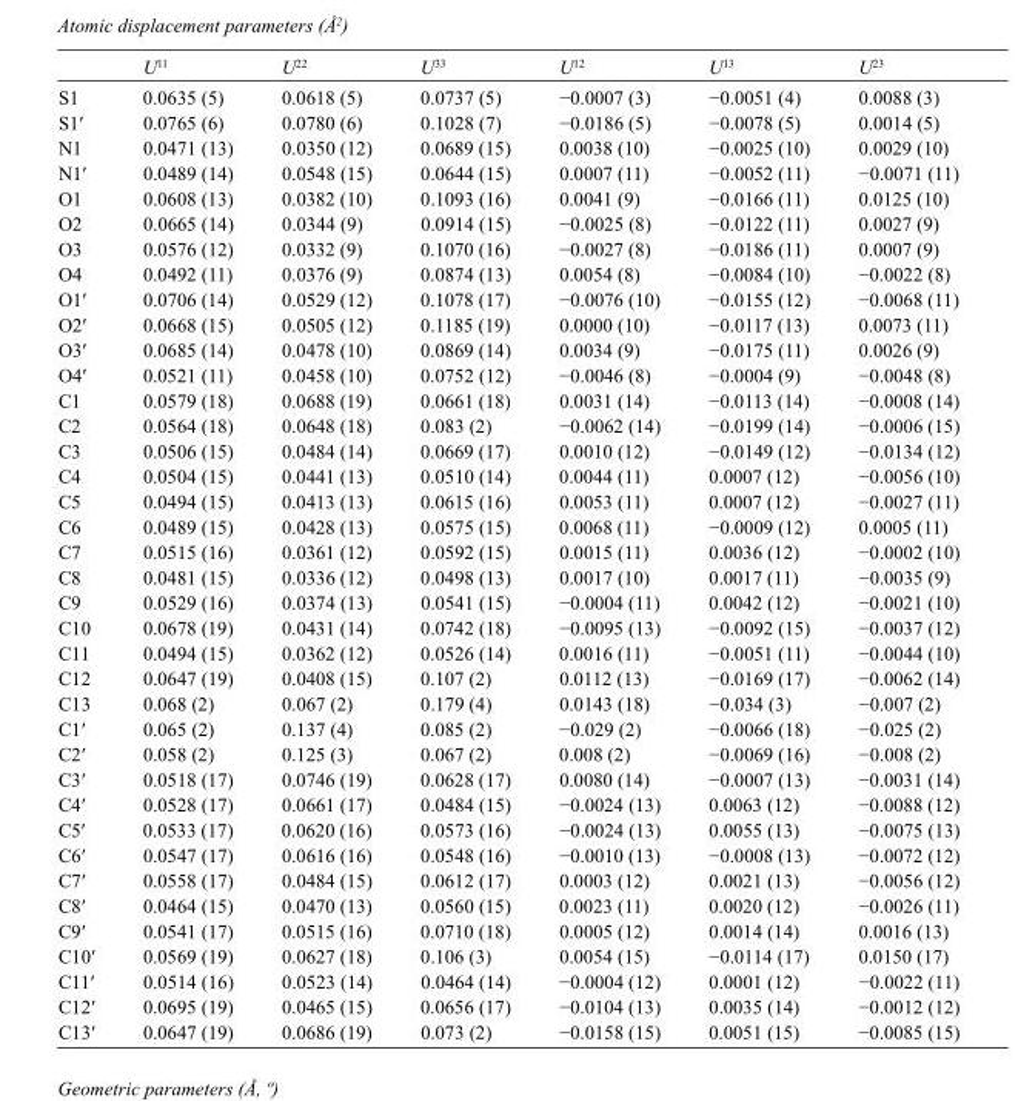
<table><thead><tr><td></td><td>U<sup>11</sup></td><td>U<sup>22</sup></td><td>U<sup>33</sup></td><td>U<sup>12</sup></td><td>U<sup>13</sup></td><td>U<sup>23</sup></td></tr></thead><tbody><tr><td>S1</td><td>0.0635 (5)</td><td>0.0618 (5)</td><td>0.0737 (5)</td><td>−0.0007 (3)</td><td>−0.0051 (4)</td><td>0.0088 (3)</td></tr><tr><td>S1′</td><td>0.0765 (6)</td><td>0.0780 (6)</td><td>0.1028 (7)</td><td>−0.0186 (5)</td><td>−0.0078 (5)</td><td>0.0014 (5)</td></tr><tr><td>N1</td><td>0.0471 (13)</td><td>0.0350 (12)</td><td>0.0689 (15)</td><td>0.0038 (10)</td><td>−0.0025 (10)</td><td>0.0029 (10)</td></tr><tr><td>N1′</td><td>0.0489 (14)</td><td>0.0548 (15)</td><td>0.0644 (15)</td><td>0.0007 (11)</td><td>−0.0052 (11)</td><td>−0.0071 (11)</td></tr><tr><td>O1</td><td>0.0608 (13)</td><td>0.0382 (10)</td><td>0.1093 (16)</td><td>0.0041 (9)</td><td>−0.0166 (11)</td><td>0.0125 (10)</td></tr><tr><td>O2</td><td>0.0665 (14)</td><td>0.0344 (9)</td><td>0.0914 (15)</td><td>−0.0025 (8)</td><td>−0.0122 (11)</td><td>0.0027 (9)</td></tr><tr><td>O3</td><td>0.0576 (12)</td><td>0.0332 (9)</td><td>0.1070 (16)</td><td>−0.0027 (8)</td><td>−0.0186 (11)</td><td>0.0007 (9)</td></tr><tr><td>O4</td><td>0.0492 (11)</td><td>0.0376 (9)</td><td>0.0874 (13)</td><td>0.0054 (8)</td><td>−0.0084 (10)</td><td>−0.0022 (8)</td></tr><tr><td>O1′</td><td>0.0706 (14)</td><td>0.0529 (12)</td><td>0.1078 (17)</td><td>−0.0076 (10)</td><td>−0.0155 (12)</td><td>−0.0068 (11)</td></tr><tr><td>O2′</td><td>0.0668 (15)</td><td>0.0505 (12)</td><td>0.1185 (19)</td><td>0.0000 (10)</td><td>−0.0117 (13)</td><td>0.0073 (11)</td></tr><tr><td>O3′</td><td>0.0685 (14)</td><td>0.0478 (10)</td><td>0.0869 (14)</td><td>0.0034 (9)</td><td>−0.0175 (11)</td><td>0.0026 (9)</td></tr><tr><td>O4′</td><td>0.0521 (11)</td><td>0.0458 (10)</td><td>0.0752 (12)</td><td>−0.0046 (8)</td><td>−0.0004 (9)</td><td>−0.0048 (8)</td></tr><tr><td>C1</td><td>0.0579 (18)</td><td>0.0688 (19)</td><td>0.0661 (18)</td><td>0.0031 (14)</td><td>−0.0113 (14)</td><td>−0.0008 (14)</td></tr><tr><td>C2</td><td>0.0564 (18)</td><td>0.0648 (18)</td><td>0.083 (2)</td><td>−0.0062 (14)</td><td>−0.0199 (14)</td><td>−0.0006 (15)</td></tr><tr><td>C3</td><td>0.0506 (15)</td><td>0.0484 (14)</td><td>0.0669 (17)</td><td>0.0010 (12)</td><td>−0.0149 (12)</td><td>−0.0134 (12)</td></tr><tr><td>C4</td><td>0.0504 (15)</td><td>0.0441 (13)</td><td>0.0510 (14)</td><td>0.0044 (11)</td><td>0.0007 (12)</td><td>−0.0056 (10)</td></tr><tr><td>C5</td><td>0.0494 (15)</td><td>0.0413 (13)</td><td>0.0615 (16)</td><td>0.0053 (11)</td><td>0.0007 (12)</td><td>−0.0027 (11)</td></tr><tr><td>C6</td><td>0.0489 (15)</td><td>0.0428 (13)</td><td>0.0575 (15)</td><td>0.0068 (11)</td><td>−0.0009 (12)</td><td>0.0005 (11)</td></tr><tr><td>C7</td><td>0.0515 (16)</td><td>0.0361 (12)</td><td>0.0592 (15)</td><td>0.0015 (11)</td><td>0.0036 (12)</td><td>−0.0002 (10)</td></tr><tr><td>C8</td><td>0.0481 (15)</td><td>0.0336 (12)</td><td>0.0498 (13)</td><td>0.0017 (10)</td><td>0.0017 (11)</td><td>−0.0035 (9)</td></tr><tr><td>C9</td><td>0.0529 (16)</td><td>0.0374 (13)</td><td>0.0541 (15)</td><td>−0.0004 (11)</td><td>0.0042 (12)</td><td>−0.0021 (10)</td></tr><tr><td>C10</td><td>0.0678 (19)</td><td>0.0431 (14)</td><td>0.0742 (18)</td><td>−0.0095 (13)</td><td>−0.0092 (15)</td><td>−0.0037 (12)</td></tr><tr><td>C11</td><td>0.0494 (15)</td><td>0.0362 (12)</td><td>0.0526 (14)</td><td>0.0016 (11)</td><td>−0.0051 (11)</td><td>−0.0044 (10)</td></tr><tr><td>C12</td><td>0.0647 (19)</td><td>0.0408 (15)</td><td>0.107 (2)</td><td>0.0112 (13)</td><td>−0.0169 (17)</td><td>−0.0062 (14)</td></tr><tr><td>C13</td><td>0.068 (2)</td><td>0.067 (2)</td><td>0.179 (4)</td><td>0.0143 (18)</td><td>−0.034 (3)</td><td>−0.007 (2)</td></tr><tr><td>C1′</td><td>0.065 (2)</td><td>0.137 (4)</td><td>0.085 (2)</td><td>−0.029 (2)</td><td>−0.0066 (18)</td><td>−0.025 (2)</td></tr><tr><td>C2′</td><td>0.058 (2)</td><td>0.125 (3)</td><td>0.067 (2)</td><td>0.008 (2)</td><td>−0.0069 (16)</td><td>−0.008 (2)</td></tr><tr><td>C3′</td><td>0.0518 (17)</td><td>0.0746 (19)</td><td>0.0628 (17)</td><td>0.0080 (14)</td><td>−0.0007 (13)</td><td>−0.0031 (14)</td></tr><tr><td>C4′</td><td>0.0528 (17)</td><td>0.0661 (17)</td><td>0.0484 (15)</td><td>−0.0024 (13)</td><td>0.0063 (12)</td><td>−0.0088 (12)</td></tr><tr><td>C5′</td><td>0.0533 (17)</td><td>0.0620 (16)</td><td>0.0573 (16)</td><td>−0.0024 (13)</td><td>0.0055 (13)</td><td>−0.0075 (13)</td></tr><tr><td>C6′</td><td>0.0547 (17)</td><td>0.0616 (16)</td><td>0.0548 (16)</td><td>−0.0010 (13)</td><td>−0.0008 (13)</td><td>−0.0072 (12)</td></tr><tr><td>C7′</td><td>0.0558 (17)</td><td>0.0484 (15)</td><td>0.0612 (17)</td><td>0.0003 (12)</td><td>0.0021 (13)</td><td>−0.0056 (12)</td></tr><tr><td>C8′</td><td>0.0464 (15)</td><td>0.0470 (13)</td><td>0.0560 (15)</td><td>0.0023 (11)</td><td>0.0020 (12)</td><td>−0.0026 (11)</td></tr><tr><td>C9′</td><td>0.0541 (17)</td><td>0.0515 (16)</td><td>0.0710 (18)</td><td>0.0005 (12)</td><td>0.0014 (14)</td><td>0.0016 (13)</td></tr><tr><td>C10′</td><td>0.0569 (19)</td><td>0.0627 (18)</td><td>0.106 (3)</td><td>0.0054 (15)</td><td>−0.0114 (17)</td><td>0.0150 (17)</td></tr><tr><td>C11′</td><td>0.0514 (16)</td><td>0.0523 (14)</td><td>0.0464 (14)</td><td>−0.0004 (12)</td><td>0.0001 (12)</td><td>−0.0022 (11)</td></tr><tr><td>C12′</td><td>0.0695 (19)</td><td>0.0465 (15)</td><td>0.0656 (17)</td><td>−0.0104 (13)</td><td>0.0035 (14)</td><td>−0.0012 (12)</td></tr><tr><td>C13′</td><td>0.0647 (19)</td><td>0.0686 (19)</td><td>0.073 (2)</td><td>−0.0158 (15)</td><td>0.0051 (15)</td><td>−0.0085 (15)</td></tr></tbody></table>